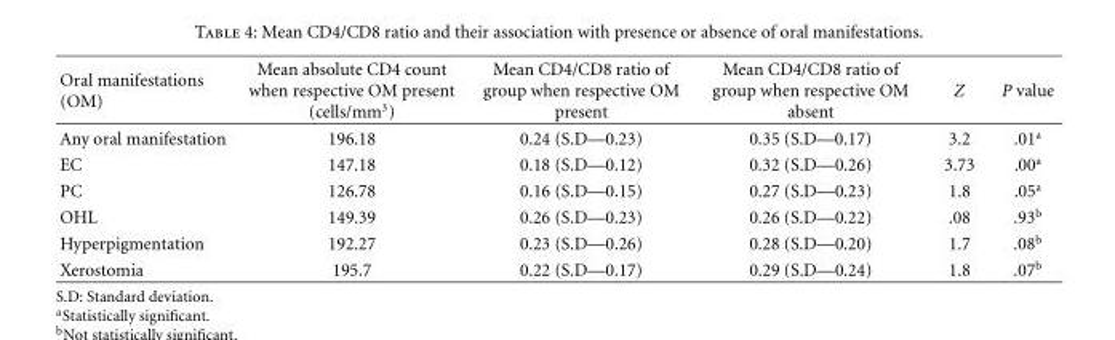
<table><thead><tr><td>Oral manifestations (OM)</td><td>Mean absolute CD4 count when respective OM present (cells/mm<sup>3</sup>)</td><td>Mean CD4/CD8 ratio of group when respective OM present</td><td>Mean CD4/CD8 ratio of group when respective OM absent</td><td>Z</td><td>P value</td></tr></thead><tbody><tr><td>Any oral manifestation</td><td>196.18</td><td>0.24 (S.D—0.23)</td><td>0.35 (S.D—0.17)</td><td>3.2</td><td>.01<sup>a</sup></td></tr><tr><td>EC</td><td>147.18</td><td>0.18 (S.D—0.12)</td><td>0.32 (S.D—0.26)</td><td>3.73</td><td>.00<sup>a</sup></td></tr><tr><td>PC</td><td>126.78</td><td>0.16 (S.D—0.15)</td><td>0.27 (S.D—0.23)</td><td>1.8</td><td>.05<sup>a</sup></td></tr><tr><td>OHL</td><td>149.39</td><td>0.26 (S.D—0.23)</td><td>0.26 (S.D—0.22)</td><td>.08</td><td>.93<sup>b</sup></td></tr><tr><td>Hyperpigmentation</td><td>192.27</td><td>0.23 (S.D—0.26)</td><td>0.28 (S.D—0.20)</td><td>1.7</td><td>.08<sup>b</sup></td></tr><tr><td>Xerostomia</td><td>195.7</td><td>0.22 (S.D—0.17)</td><td>0.29 (S.D—0.24)</td><td>1.8</td><td>.07<sup>b</sup></td></tr></tbody></table>